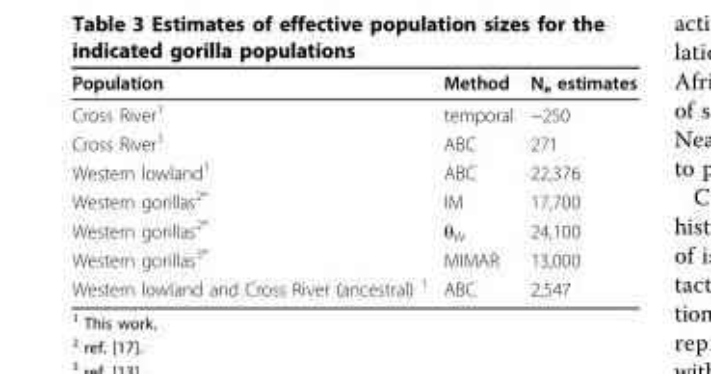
<table><thead><tr><td>Population</td><td>Method</td><td>N<sub>e</sub> estimates</td></tr></thead><tbody><tr><td>Cross River<sup>1</sup></td><td>temporal</td><td>~250</td></tr><tr><td>Cross River<sup>1</sup></td><td>ABC</td><td>271</td></tr><tr><td>Western lowland<sup>1</sup></td><td>ABC</td><td>22,376</td></tr><tr><td>Western gorillas<sup>2*</sup></td><td>IM</td><td>17,700</td></tr><tr><td>Western gorillas<sup>2*</sup></td><td>θ<sub>W</sub></td><td>24,100</td></tr><tr><td>Western gorillas<sup>3*</sup></td><td>MIMAR</td><td>13,000</td></tr><tr><td>Western lowland and Cross River (ancestral) <sup>1</sup></td><td>ABC</td><td>2,547</td></tr></tbody></table>